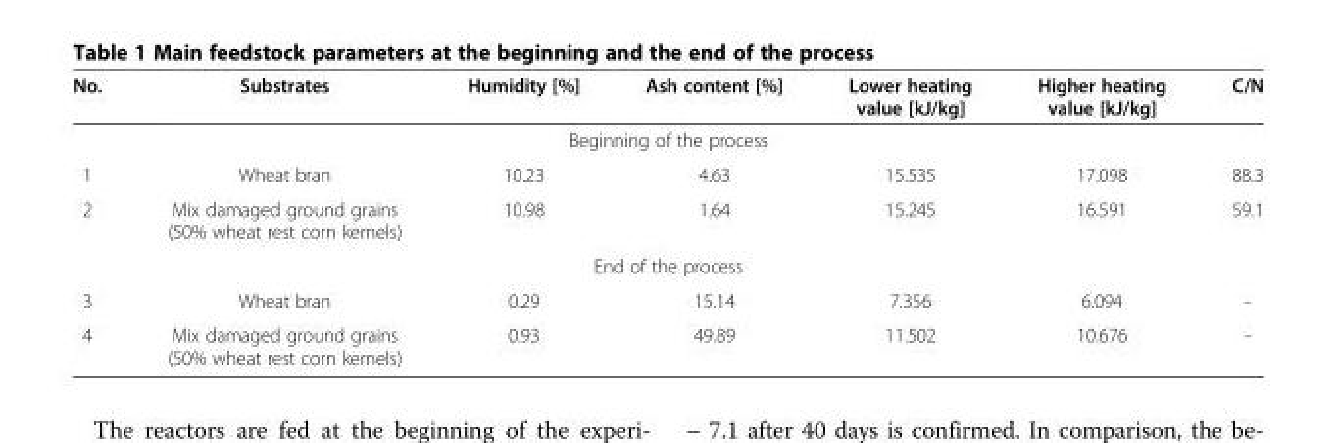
<table><thead><tr><td>No.</td><td>Substrates</td><td>Humidity [%]</td><td>Ash content [%]</td><td>Lower heating value [kJ/kg]</td><td>Higher heating value [kJ/kg]</td><td>C/N</td></tr></thead><tbody><tr><td colspan="7">Beginning of the process</td></tr><tr><td>1</td><td>Wheat bran</td><td>10.23</td><td>4.63</td><td>15.535</td><td>17.098</td><td>88.3</td></tr><tr><td>2</td><td>Mix damaged ground grains (50% wheat rest corn kernels)</td><td>10.98</td><td>1.64</td><td>15.245</td><td>16.591</td><td>59.1</td></tr><tr><td colspan="7">End of the process</td></tr><tr><td>3</td><td>Wheat bran</td><td>0.29</td><td>15.14</td><td>7.356</td><td>6.094</td><td>-</td></tr><tr><td>4</td><td>Mix damaged ground grains (50% wheat rest corn kernels)</td><td>0.93</td><td>49.89</td><td>11.502</td><td>10.676</td><td>-</td></tr></tbody></table>